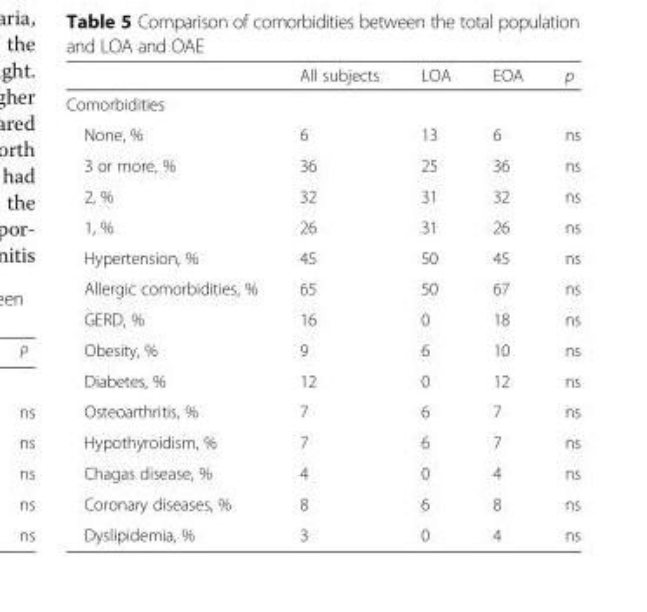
<table><thead><tr><td></td><td>All subjects</td><td>LOA</td><td>EOA</td><td>p</td></tr></thead><tbody><tr><td colspan="5">Comorbidities</td></tr><tr><td>None, %</td><td>6</td><td>13</td><td>6</td><td>ns</td></tr><tr><td>3 or more, %</td><td>36</td><td>25</td><td>36</td><td>ns</td></tr><tr><td>2, %</td><td>32</td><td>31</td><td>32</td><td>ns</td></tr><tr><td>1, %</td><td>26</td><td>31</td><td>26</td><td>ns</td></tr><tr><td>Hypertension, %</td><td>45</td><td>50</td><td>45</td><td>ns</td></tr><tr><td>Allergic comorbidities, %</td><td>65</td><td>50</td><td>67</td><td>ns</td></tr><tr><td>GERD, %</td><td>16</td><td>0</td><td>18</td><td>ns</td></tr><tr><td>Obesity, %</td><td>9</td><td>6</td><td>10</td><td>ns</td></tr><tr><td>Diabetes, %</td><td>12</td><td>0</td><td>12</td><td>ns</td></tr><tr><td>Osteoarthritis, %</td><td>7</td><td>6</td><td>7</td><td>ns</td></tr><tr><td>Hypothyroidism, %</td><td>7</td><td>6</td><td>7</td><td>ns</td></tr><tr><td>Chagas disease, %</td><td>4</td><td>0</td><td>4</td><td>ns</td></tr><tr><td>Coronary diseases, %</td><td>8</td><td>6</td><td>8</td><td>ns</td></tr><tr><td>Dyslipidemia, %</td><td>3</td><td>0</td><td>4</td><td>ns</td></tr></tbody></table>